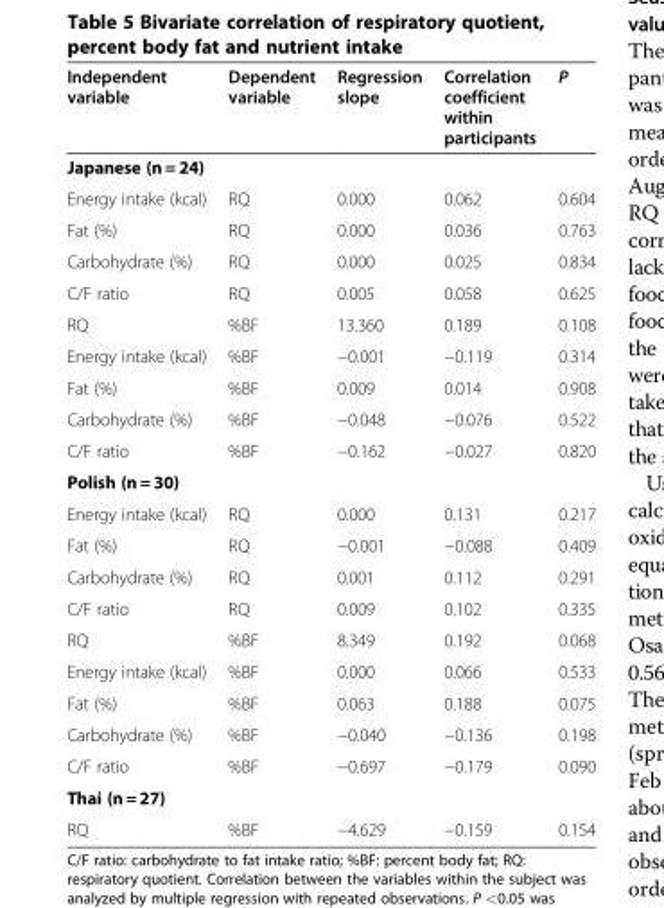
<table><thead><tr><td>Independent variable</td><td>Dependent variable</td><td>Regression slope</td><td>Correlation coefficient within participants</td><td>P</td></tr></thead><tbody><tr><td colspan="5">Japanese (n = 24)</td></tr><tr><td>Energy intake (kcal)</td><td>RQ</td><td>0.000</td><td>0.062</td><td>0.604</td></tr><tr><td>Fat (%)</td><td>RQ</td><td>0.000</td><td>0.036</td><td>0.763</td></tr><tr><td>Carbohydrate (%)</td><td>RQ</td><td>0.000</td><td>0.025</td><td>0.834</td></tr><tr><td>C/F ratio</td><td>RQ</td><td>0.005</td><td>0.058</td><td>0.625</td></tr><tr><td>RQ</td><td>%BF</td><td>13.360</td><td>0.189</td><td>0.108</td></tr><tr><td>Energy intake (kcal)</td><td>%BF</td><td>−0.001</td><td>−0.119</td><td>0.314</td></tr><tr><td>Fat (%)</td><td>%BF</td><td>0.009</td><td>0.014</td><td>0.908</td></tr><tr><td>Carbohydrate (%)</td><td>%BF</td><td>−0.048</td><td>−0.076</td><td>0.522</td></tr><tr><td>C/F ratio</td><td>%BF</td><td>−0.162</td><td>−0.027</td><td>0.820</td></tr><tr><td colspan="5">Polish (n = 30)</td></tr><tr><td>Energy intake (kcal)</td><td>RQ</td><td>0.000</td><td>0.131</td><td>0.217</td></tr><tr><td>Fat (%)</td><td>RQ</td><td>−0.001</td><td>−0.088</td><td>0.409</td></tr><tr><td>Carbohydrate (%)</td><td>RQ</td><td>0.001</td><td>0.112</td><td>0.291</td></tr><tr><td>C/F ratio</td><td>RQ</td><td>0.009</td><td>0.102</td><td>0.335</td></tr><tr><td>RQ</td><td>%BF</td><td>8.349</td><td>0.192</td><td>0.068</td></tr><tr><td>Energy intake (kcal)</td><td>%BF</td><td>0.000</td><td>0.066</td><td>0.533</td></tr><tr><td>Fat (%)</td><td>%BF</td><td>0.063</td><td>0.188</td><td>0.075</td></tr><tr><td>Carbohydrate (%)</td><td>%BF</td><td>−0.040</td><td>−0.136</td><td>0.198</td></tr><tr><td>C/F ratio</td><td>%BF</td><td>−0.697</td><td>−0.179</td><td>0.090</td></tr><tr><td colspan="5">Thai (n = 27)</td></tr><tr><td>RQ</td><td>%BF</td><td>−4.629</td><td>−0.159</td><td>0.154</td></tr></tbody></table>